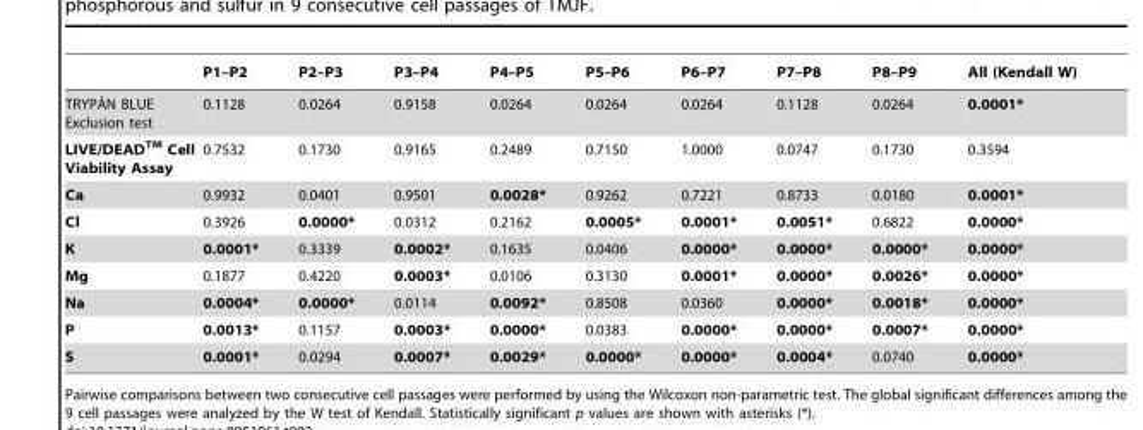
<table><thead><tr><td></td><td>P1–P2</td><td>P2–P3</td><td>P3–P4</td><td>P4–P5</td><td>P5–P6</td><td>P6–P7</td><td>P7–P8</td><td>P8–P9</td><td>All (Kendall W)</td></tr></thead><tbody><tr><td>TRYPA´ N BLUE Exclusion test</td><td>0.1128</td><td>0.0264</td><td>0.9158</td><td>0.0264</td><td>0.0264</td><td>0.0264</td><td>0.1128</td><td>0.0264</td><td>0.0001*</td></tr><tr><td>LIVE/DEADTM Cell Viability Assay</td><td>0.7532</td><td>0.1730</td><td>0.9165</td><td>0.2489</td><td>0.7150</td><td>1.0000</td><td>0.0747</td><td>0.1730</td><td>0.3594</td></tr><tr><td>Ca</td><td>0.9932</td><td>0.0401</td><td>0.9501</td><td>0.0028*</td><td>0.9262</td><td>0.7221</td><td>0.8733</td><td>0.0180</td><td>0.0001*</td></tr><tr><td>Cl</td><td>0.3926</td><td>0.0000*</td><td>0.0312</td><td>0.2162</td><td>0.0005*</td><td>0.0001*</td><td>0.0051*</td><td>0.6822</td><td>0.0000*</td></tr><tr><td>K</td><td>0.0001*</td><td>0.3339</td><td>0.0002*</td><td>0.1635</td><td>0.0406</td><td>0.0000*</td><td>0.0000*</td><td>0.0000*</td><td>0.0000*</td></tr><tr><td>Mg</td><td>0.1877</td><td>0.4220</td><td>0.0003*</td><td>0.0106</td><td>0.3130</td><td>0.0001*</td><td>0.0000*</td><td>0.0026*</td><td>0.0000*</td></tr><tr><td>Na</td><td>0.0004*</td><td>0.0000*</td><td>0.0114</td><td>0.0092*</td><td>0.8508</td><td>0.0360</td><td>0.0000*</td><td>0.0018*</td><td>0.0000*</td></tr><tr><td>P</td><td>0.0013*</td><td>0.1157</td><td>0.0003*</td><td>0.0000*</td><td>0.0383</td><td>0.0000*</td><td>0.0000*</td><td>0.0007*</td><td>0.0000*</td></tr><tr><td>S</td><td>0.0001*</td><td>0.0294</td><td>0.0007*</td><td>0.0029*</td><td>0.0000*</td><td>0.0000*</td><td>0.0004*</td><td>0.0740</td><td>0.0000*</td></tr></tbody></table>